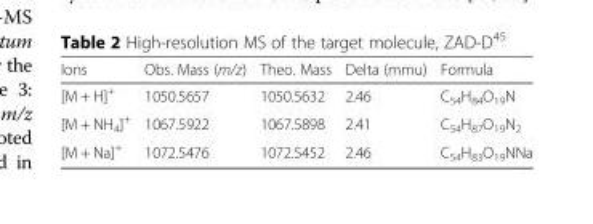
<table><thead><tr><td>Ions</td><td>Obs. Mass (m/z)</td><td>Theo. Mass</td><td>Delta (mmu)</td><td>Formula</td></tr></thead><tbody><tr><td>[M + H]<sup>+</sup></td><td>1050.5657</td><td>1050.5632</td><td>2.46</td><td>C<sub>54</sub>H<sub>84</sub>O<sub>19</sub>N</td></tr><tr><td>[M + NH<sub>4</sub>]<sup>+</sup></td><td>1067.5922</td><td>1067.5898</td><td>2.41</td><td>C<sub>54</sub>H<sub>87</sub>O<sub>19</sub>N<sub>2</sub></td></tr><tr><td>[M + Na]<sup>+</sup></td><td>1072.5476</td><td>1072.5452</td><td>2.46</td><td>C<sub>54</sub>H<sub>83</sub>O<sub>19</sub>NNa</td></tr></tbody></table>